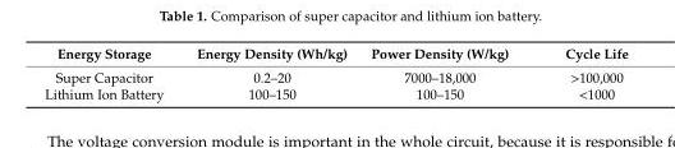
<table><thead><tr><td>Energy Storage</td><td>Energy Density (Wh/kg)</td><td>Power Density (W/kg)</td><td>Cycle Life</td></tr></thead><tbody><tr><td>Super Capacitor</td><td>0.2–20</td><td>7000–18,000</td><td>&gt;100,000</td></tr><tr><td>Lithium Ion Battery</td><td>100–150</td><td>100–150</td><td>&lt;1000</td></tr></tbody></table>